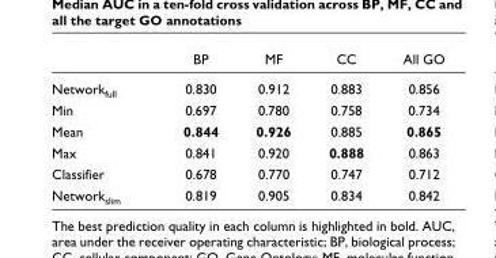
<table><thead><tr><td></td><td>BP</td><td>MF</td><td>CC</td><td>All GO</td></tr></thead><tbody><tr><td>Network<sub>full</sub></td><td>0.830</td><td>0.912</td><td>0.883</td><td>0.856</td></tr><tr><td>Min</td><td>0.697</td><td>0.780</td><td>0.758</td><td>0.734</td></tr><tr><td>Mean</td><td>0.844</td><td>0.926</td><td>0.885</td><td>0.865</td></tr><tr><td>Max</td><td>0.841</td><td>0.920</td><td>0.888</td><td>0.863</td></tr><tr><td>Classifier</td><td>0.678</td><td>0.770</td><td>0.747</td><td>0.712</td></tr><tr><td>Network<sub>slim</sub></td><td>0.819</td><td>0.905</td><td>0.834</td><td>0.842</td></tr></tbody></table>